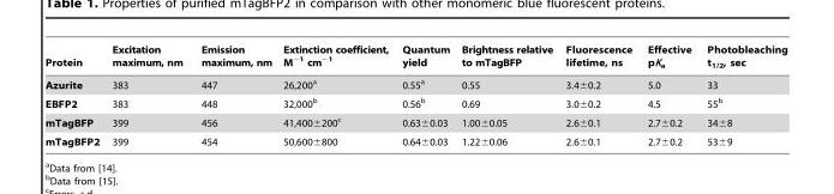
<table><thead><tr><td>Protein</td><td>Excitation maximum, nm</td><td>Emission maximum, nm</td><td>Extinction coefficient, M<sup>−1</sup> cm<sup>−1</sup></td><td>Quantum yield</td><td>Brightness relative to mTagBFP</td><td>Fluorescence lifetime, ns</td><td>Effective pK<sub>a</sub></td><td>Photobleaching t<sub>1/2</sub>, sec</td></tr></thead><tbody><tr><td>Azurite</td><td>383</td><td>447</td><td>26,200<sup>a</sup></td><td>0.55<sup>a</sup></td><td>0.55</td><td>3.4±0.2</td><td>5.0</td><td>33</td></tr><tr><td>EBFP2</td><td>383</td><td>448</td><td>32,000<sup>b</sup></td><td>0.56<sup>b</sup></td><td>0.69</td><td>3.0±0.2</td><td>4.5</td><td>55<sup>b</sup></td></tr><tr><td>mTagBFP</td><td>399</td><td>456</td><td>41,400±200<sup>c</sup></td><td>0.63±0.03</td><td>1.00±0.05</td><td>2.6±0.1</td><td>2.7±0.2</td><td>34±8</td></tr><tr><td>mTagBFP2</td><td>399</td><td>454</td><td>50,600±800</td><td>0.64±0.03</td><td>1.22±0.06</td><td>2.6±0.1</td><td>2.7±0.2</td><td>53±9</td></tr></tbody></table>